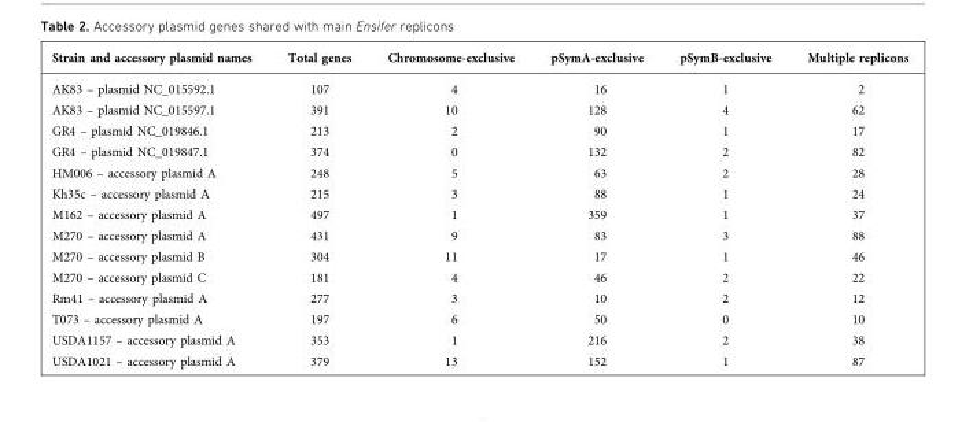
<table><thead><tr><td>Strain and accessory plasmid names</td><td>Total genes</td><td>Chromosome-exclusive</td><td>pSymA-exclusive</td><td>pSymB-exclusive</td><td>Multiple replicons</td></tr></thead><tbody><tr><td>AK83 – plasmid NC_015592.1</td><td>107</td><td>4</td><td>16</td><td>1</td><td>2</td></tr><tr><td>AK83 – plasmid NC_015597.1</td><td>391</td><td>10</td><td>128</td><td>4</td><td>62</td></tr><tr><td>GR4 – plasmid NC_019846.1</td><td>213</td><td>2</td><td>90</td><td>1</td><td>17</td></tr><tr><td>GR4 – plasmid NC_019847.1</td><td>374</td><td>0</td><td>132</td><td>2</td><td>82</td></tr><tr><td>HM006 – accessory plasmid A</td><td>248</td><td>5</td><td>63</td><td>2</td><td>28</td></tr><tr><td>Kh35c – accessory plasmid A</td><td>215</td><td>3</td><td>88</td><td>1</td><td>24</td></tr><tr><td>M162 – accessory plasmid A</td><td>497</td><td>1</td><td>359</td><td>1</td><td>37</td></tr><tr><td>M270 – accessory plasmid A</td><td>431</td><td>9</td><td>83</td><td>3</td><td>88</td></tr><tr><td>M270 – accessory plasmid B</td><td>304</td><td>11</td><td>17</td><td>1</td><td>46</td></tr><tr><td>M270 – accessory plasmid C</td><td>181</td><td>4</td><td>46</td><td>2</td><td>22</td></tr><tr><td>Rm41 – accessory plasmid A</td><td>277</td><td>3</td><td>10</td><td>2</td><td>12</td></tr><tr><td>T073 – accessory plasmid A</td><td>197</td><td>6</td><td>50</td><td>0</td><td>10</td></tr><tr><td>USDA1157 – accessory plasmid A</td><td>353</td><td>1</td><td>216</td><td>2</td><td>38</td></tr><tr><td>USDA1021 – accessory plasmid A</td><td>379</td><td>13</td><td>152</td><td>1</td><td>87</td></tr></tbody></table>